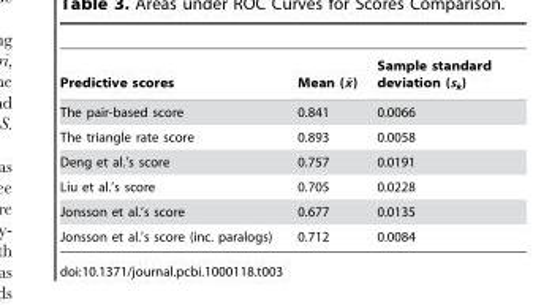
<table><thead><tr><td>Predictive scores</td><td>Mean (x¯)</td><td>Sample standard deviation (sx¯)</td></tr></thead><tbody><tr><td>The pair-based score</td><td>0.841</td><td>0.0066</td></tr><tr><td>The triangle rate score</td><td>0.893</td><td>0.0058</td></tr><tr><td>Deng et al.’s score</td><td>0.757</td><td>0.0191</td></tr><tr><td>Liu et al.’s score</td><td>0.705</td><td>0.0228</td></tr><tr><td>Jonsson et al.’s score</td><td>0.677</td><td>0.0135</td></tr><tr><td>Jonsson et al.’s score (inc. paralogs)</td><td>0.712</td><td>0.0084</td></tr></tbody></table>